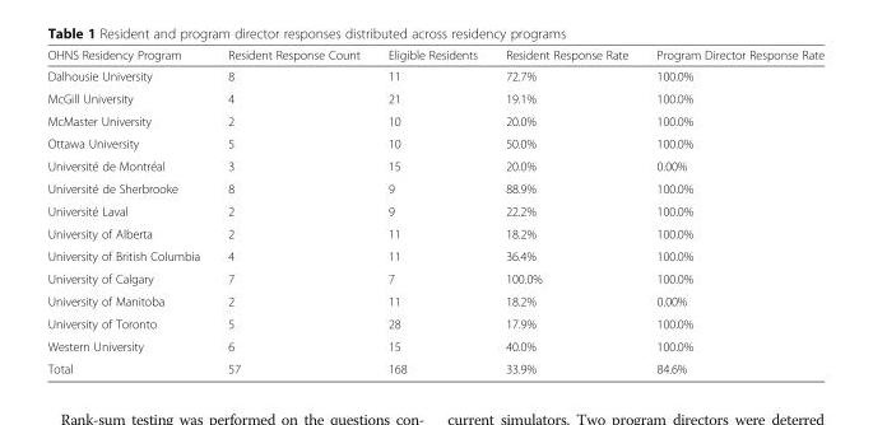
<table><thead><tr><td>OHNS Residency Program</td><td>Resident Response Count</td><td>Eligible Residents</td><td>Resident Response Rate</td><td>Program Director Response Rate</td></tr></thead><tbody><tr><td>Dalhousie University</td><td>8</td><td>11</td><td>72.7%</td><td>100.0%</td></tr><tr><td>McGill University</td><td>4</td><td>21</td><td>19.1%</td><td>100.0%</td></tr><tr><td>McMaster University</td><td>2</td><td>10</td><td>20.0%</td><td>100.0%</td></tr><tr><td>Ottawa University</td><td>5</td><td>10</td><td>50.0%</td><td>100.0%</td></tr><tr><td>Université de Montréal</td><td>3</td><td>15</td><td>20.0%</td><td>0.00%</td></tr><tr><td>Université de Sherbrooke</td><td>8</td><td>9</td><td>88.9%</td><td>100.0%</td></tr><tr><td>Université Laval</td><td>2</td><td>9</td><td>22.2%</td><td>100.0%</td></tr><tr><td>University of Alberta</td><td>2</td><td>11</td><td>18.2%</td><td>100.0%</td></tr><tr><td>University of British Columbia</td><td>4</td><td>11</td><td>36.4%</td><td>100.0%</td></tr><tr><td>University of Calgary</td><td>7</td><td>7</td><td>100.0%</td><td>100.0%</td></tr><tr><td>University of Manitoba</td><td>2</td><td>11</td><td>18.2%</td><td>0.00%</td></tr><tr><td>University of Toronto</td><td>5</td><td>28</td><td>17.9%</td><td>100.0%</td></tr><tr><td>Western University</td><td>6</td><td>15</td><td>40.0%</td><td>100.0%</td></tr><tr><td>Total</td><td>57</td><td>168</td><td>33.9%</td><td>84.6%</td></tr></tbody></table>